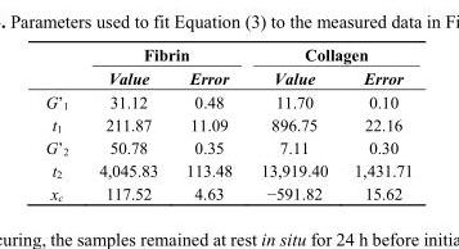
<table><thead><tr><td rowspan="2"></td><td colspan="2">Fibrin</td><td colspan="2">Collagen</td></tr><tr><td>Value</td><td>Error</td><td>Value</td><td>Error</td></tr></thead><tbody><tr><td>G’<sub>1</sub></td><td>31.12</td><td>0.48</td><td>11.70</td><td>0.10</td></tr><tr><td>t<sub>1</sub></td><td>211.87</td><td>11.09</td><td>896.75</td><td>22.16</td></tr><tr><td>G’<sub>2</sub></td><td>50.78</td><td>0.35</td><td>7.11</td><td>0.30</td></tr><tr><td>t<sub>2</sub></td><td>4,045.83</td><td>113.48</td><td>13,919.40</td><td>1,431.71</td></tr><tr><td>x<sub>c</sub></td><td>117.52</td><td>4.63</td><td>−591.82</td><td>15.62</td></tr></tbody></table>